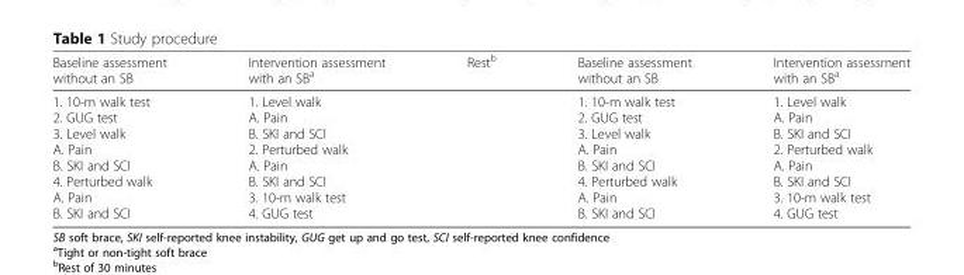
<table><thead><tr><td>Baseline assessment without an SB</td><td>Intervention assessment with an SB<sup>a</sup></td><td>Rest<sup>b</sup></td><td>Baseline assessment without an SB</td><td>Intervention assessment with an SB<sup>a</sup></td></tr></thead><tbody><tr><td>1. 10-m walk test 2. GUG test 3. Level walk A. Pain B. SKI and SCI 4. Perturbed walk A. Pain B. SKI and SCI</td><td>1. Level walk A. Pain B. SKI and SCI 2. Perturbed walk A. Pain B. SKI and SCI 3. 10-m walk test 4. GUG test</td><td></td><td>1. 10-m walk test 2. GUG test 3. Level walk A. Pain B. SKI and SCI 4. Perturbed walk A. Pain B. SKI and SCI</td><td>1. Level walk A. Pain B. SKI and SCI 2. Perturbed walk A. Pain B. SKI and SCI 3. 10-m walk test 4. GUG test</td></tr></tbody></table>